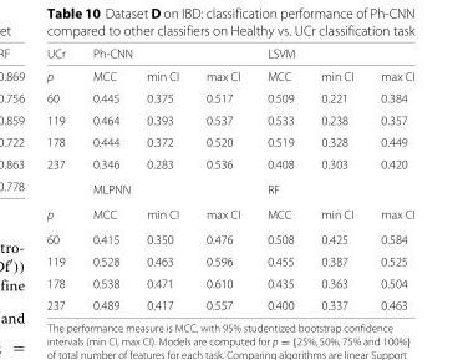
<table><thead><tr><td rowspan="2">UCr p</td><td colspan="3">Ph-CNN</td><td colspan="3">LSVM</td></tr><tr><td>MCC</td><td>min CI</td><td>max CI</td><td>MCC</td><td>min CI</td><td>max CI</td></tr></thead><tbody><tr><td>60</td><td>0.445</td><td>0.375</td><td>0.517</td><td>0.509</td><td>0.221</td><td>0.384</td></tr><tr><td>119</td><td>0.464</td><td>0.393</td><td>0.537</td><td>0.533</td><td>0.238</td><td>0.357</td></tr><tr><td>178</td><td>0.444</td><td>0.372</td><td>0.520</td><td>0.519</td><td>0.328</td><td>0.449</td></tr><tr><td rowspan="2">237</td><td>0.346</td><td>0.283</td><td>0.536</td><td>0.408</td><td>0.303</td><td>0.420</td></tr><tr><td colspan="3">MLPNN</td><td colspan="3">RF</td></tr><tr><td>p</td><td>MCC</td><td>min CI</td><td>max CI</td><td>MCC</td><td>min CI</td><td>max CI</td></tr><tr><td>60</td><td>0.415</td><td>0.350</td><td>0.476</td><td>0.508</td><td>0.425</td><td>0.584</td></tr><tr><td>119</td><td>0.528</td><td>0.463</td><td>0.596</td><td>0.455</td><td>0.387</td><td>0.525</td></tr><tr><td>178</td><td>0.538</td><td>0.471</td><td>0.610</td><td>0.435</td><td>0.363</td><td>0.504</td></tr><tr><td>237</td><td>0.489</td><td>0.417</td><td>0.557</td><td>0.400</td><td>0.337</td><td>0.463</td></tr></tbody></table>